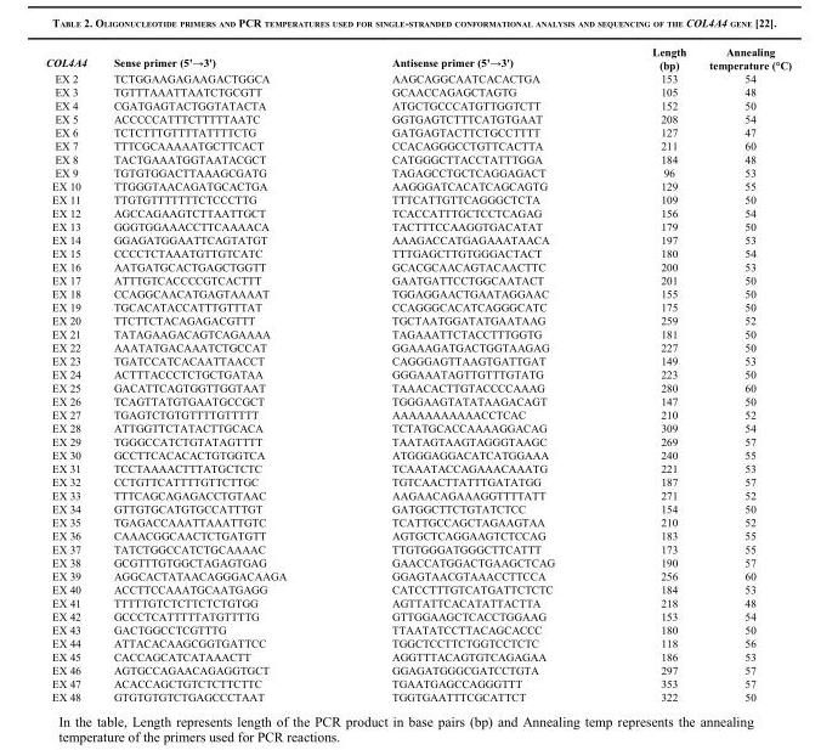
<table><thead><tr><td>COL4A4</td><td>Sense primer (5&#x27;→3&#x27;)</td><td>Antisense primer (5&#x27;→3&#x27;)</td><td>Length (bp)</td><td>Annealing temperature (°C)</td></tr></thead><tbody><tr><td>EX 2</td><td>TCTGGAAGAGAAGACTGGCA</td><td>AAGCAGGCAATCACACTGA</td><td>153</td><td>54</td></tr><tr><td>EX 3</td><td>TGTTTAAATTAATCTGCGTT</td><td>GCAACCAGAGCTAGTG</td><td>105</td><td>48</td></tr><tr><td>EX 4</td><td>CGATGAGTACTGGTATACTA</td><td>ATGCTGCCCATGTTGGTCTT</td><td>152</td><td>50</td></tr><tr><td>EX 5</td><td>ACCCCCATTTCTTTTTAATC</td><td>GGTGAGTCTTTCATGTGAAT</td><td>208</td><td>54</td></tr><tr><td>EX 6</td><td>TCTCTTTGTTTTATTTTCTG</td><td>GATGAGTACTTCTGCCTTTT</td><td>127</td><td>47</td></tr><tr><td>EX 7</td><td>TTTCGCAAAAATGCTTCACT</td><td>CCACAGGGCCTGTTCACTTA</td><td>211</td><td>60</td></tr><tr><td>EX 8</td><td>TACTGAAATGGTAATACGCT</td><td>CATGGGCTTACCTATTTGGA</td><td>184</td><td>48</td></tr><tr><td>EX 9</td><td>TGTGTGGACTTAAAGCGATG</td><td>TAGAGCCTGCTCAGGAGACT</td><td>96</td><td>53</td></tr><tr><td>EX 10</td><td>TTGGGTAACAGATGCACTGA</td><td>AAGGGATCACATCAGCAGTG</td><td>129</td><td>55</td></tr><tr><td>EX 11</td><td>TTGTGTTTTTTTCTCCCTTG</td><td>TTTCATTGTTCAGGGCTCTA</td><td>109</td><td>50</td></tr><tr><td>EX 12</td><td>AGCCAGAAGTCTTAATTGCT</td><td>TCACCATTTGCTCCTCAGAG</td><td>156</td><td>54</td></tr><tr><td>EX 13</td><td>GGGTGGAAACCTTCAAAACA</td><td>TACTTTCCAAGGTGACATAT</td><td>179</td><td>50</td></tr><tr><td>EX 14</td><td>GGAGATGGAATTCAGTATGT</td><td>AAAGACCATGAGAAATAACA</td><td>197</td><td>53</td></tr><tr><td>EX 15</td><td>CCCCTCTAAATGTTGTCATC</td><td>TTTGAGCTTGTGGGACTACT</td><td>180</td><td>54</td></tr><tr><td>EX 16</td><td>AATGATGCACTGAGCTGGTT</td><td>GCACGCAACAGTACAACTTC</td><td>200</td><td>53</td></tr><tr><td>EX 17</td><td>ATTTGTCACCCCGTCACTTT</td><td>GAATGATTCCTGGCAATACT</td><td>201</td><td>50</td></tr><tr><td>EX 18</td><td>CCAGGCAACATGAGTAAAAT</td><td>TGGAGGAACTGAATAGGAAC</td><td>155</td><td>50</td></tr><tr><td>EX 19</td><td>TGCACATACCATTTGTTTAT</td><td>CCAGGGCACATCAGGGCATC</td><td>175</td><td>50</td></tr><tr><td>EX 20</td><td>TTCTTCTACAGAGACGTTT</td><td>TGCTAATGGATATGAATAAG</td><td>259</td><td>52</td></tr><tr><td>EX 21</td><td>TATAGAAGACAGTCAGAAAA</td><td>TAGAAATTCTACCTTTGGTG</td><td>181</td><td>50</td></tr><tr><td>EX 22</td><td>AAATATGACAAATCTGCCAT</td><td>GGAAAGATGACTGGTAAGAG</td><td>227</td><td>50</td></tr><tr><td>EX 23</td><td>TGATCCATCACAATTAACCT</td><td>CAGGGAGTTAAGTGATTGAT</td><td>149</td><td>53</td></tr><tr><td>EX 24</td><td>ACTTTACCCTCTGCTGATAA</td><td>GGGAAATAGTTGTTTGTATG</td><td>223</td><td>50</td></tr><tr><td>EX 25</td><td>GACATTCAGTGGTTGGTAAT</td><td>TAAACACTTGTACCCCAAAG</td><td>280</td><td>60</td></tr><tr><td>EX 26</td><td>TCAGTTATGTGAATGCCGCT</td><td>TGGGAAGTATATAAGACAGT</td><td>147</td><td>50</td></tr><tr><td>EX 27</td><td>TGAGTCTGTGTTTTGTTTTT</td><td>AAAAAAAAAAACCTCAC</td><td>210</td><td>52</td></tr><tr><td>EX 28</td><td>ATTGGTTCTATACTTGCACA</td><td>TCTATGCACCAAAAGGACAG</td><td>309</td><td>54</td></tr><tr><td>EX 29</td><td>TGGGCCATCTGTATAGTTTT</td><td>TAATAGTAAGTAGGGTAAGC</td><td>269</td><td>57</td></tr><tr><td>EX 30</td><td>GCCTTCACACACTGTGGTCA</td><td>ATGGGAGGACATCATGGAAA</td><td>240</td><td>55</td></tr><tr><td>EX 31</td><td>TCCTAAAACTTTATGCTCTC</td><td>TCAAATACCAGAAACAAATG</td><td>221</td><td>53</td></tr><tr><td>EX 32</td><td>CCTGTTCATTTTGTTCTTGC</td><td>TGTCAACTTATTTGATATGG</td><td>187</td><td>57</td></tr><tr><td>EX 33</td><td>TTTCAGCAGAGACCTGTAAC</td><td>AAGAACAGAAAGGTTTTATT</td><td>271</td><td>52</td></tr><tr><td>EX 34</td><td>GTTGTGCATGTGCCATTTGT</td><td>GATGGCTTCTGTATCTCC</td><td>154</td><td>50</td></tr><tr><td>EX 35</td><td>TGAGACCAAATTAAATTGTC</td><td>TCATTGCCAGCTAGAAGTAA</td><td>210</td><td>52</td></tr><tr><td>EX 36</td><td>CAAACGGCAACTCTGATGTT</td><td>AGTGCTCAGGAAGTCTCCAG</td><td>183</td><td>55</td></tr><tr><td>EX 37</td><td>TATCTGGCCATCTGCAAAAC</td><td>TTGTGGGATGGGCTTCATTT</td><td>173</td><td>55</td></tr><tr><td>EX 38</td><td>GCGTTTGTGGCTAGAGTGAG</td><td>GAACCATGGACTGAAGCTCAG</td><td>190</td><td>57</td></tr><tr><td>EX 39</td><td>AGGCACTATAACAGGGACAAGA</td><td>GGAGTAACGTAAACCTTCCA</td><td>256</td><td>60</td></tr><tr><td>EX 40</td><td>ACCTTCCAAATGCAATGAGG</td><td>CATCCTTTGTCATGATTCTCTC</td><td>184</td><td>53</td></tr><tr><td>EX 41</td><td>TTTTTGTCTCTTCTCTGTGG</td><td>AGTTATTCACATATTACTTA</td><td>218</td><td>48</td></tr><tr><td>EX 42</td><td>GCCCTCATTTTTATGTTTTG</td><td>GTTGGAAGCTCACCTGGAAG</td><td>153</td><td>54</td></tr><tr><td>EX 43</td><td>GACTGGCCTCGTTTG</td><td>TTAATATCCTTACAGCACCC</td><td>180</td><td>50</td></tr><tr><td>EX 44</td><td>ATTACACAAGCGGTGATTCC</td><td>TGGCTCCTTCTGGTCCTCTC</td><td>118</td><td>56</td></tr><tr><td>EX 45</td><td>CACCAGCATCATAAACTT</td><td>AGGTTTACAGTGTCAGAGAA</td><td>186</td><td>53</td></tr><tr><td>EX 46</td><td>AGTGCCAGAACAGAGGTGCT</td><td>GGAGATGGGCGATCCTGTA</td><td>297</td><td>57</td></tr><tr><td>EX 47</td><td>ACACCAGCTGTCTCTTCTTC</td><td>TGAATGAGCCAGGGTTT</td><td>353</td><td>57</td></tr><tr><td>EX 48</td><td>GTGTGTGTCTGAGCCCTAAT</td><td>TGGTGAATTTCGCATTCT</td><td>322</td><td>50</td></tr></tbody></table>